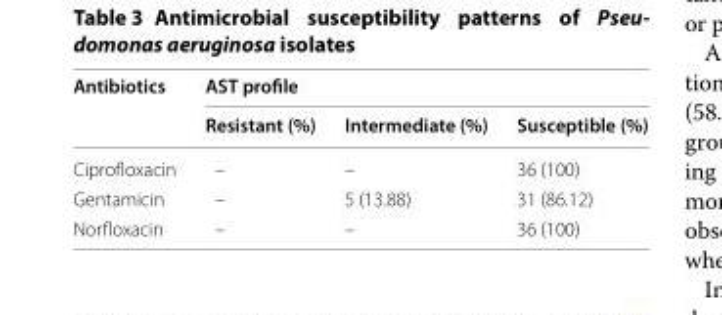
<table><thead><tr><td rowspan="2">Antibiotics</td><td colspan="3">AST profile</td></tr><tr><td>Resistant (%)</td><td>Intermediate (%)</td><td>Susceptible (%)</td></tr></thead><tbody><tr><td>Ciprofloxacin</td><td>–</td><td>–</td><td>36 (100)</td></tr><tr><td>Gentamicin</td><td>–</td><td>5 (13.88)</td><td>31 (86.12)</td></tr><tr><td>Norfloxacin</td><td>–</td><td>–</td><td>36 (100)</td></tr></tbody></table>